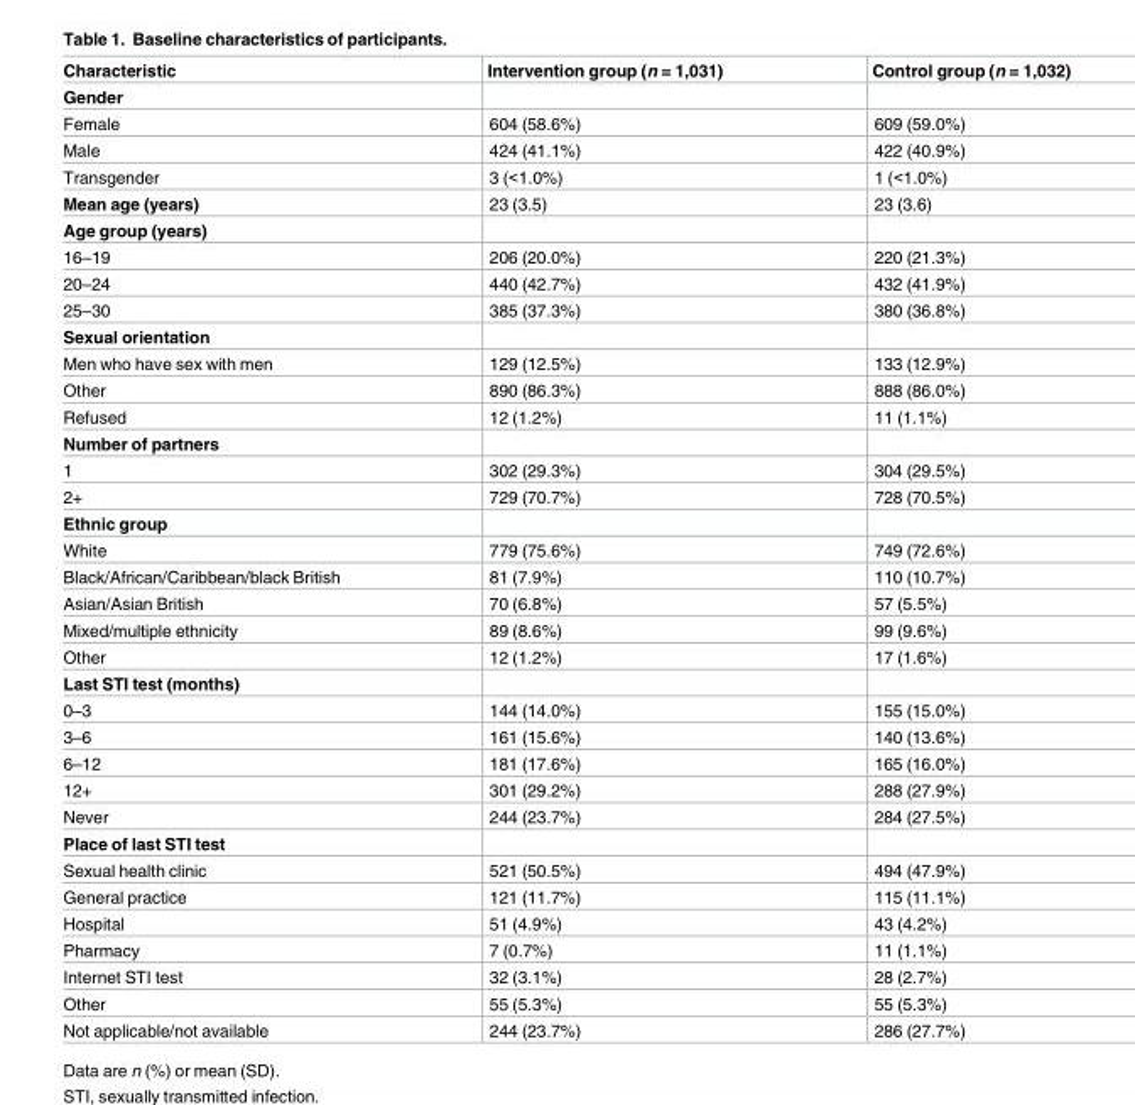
<table><thead><tr><td>Characteristic</td><td>Intervention group (n = 1,031)</td><td>Control group (n = 1,032)</td></tr></thead><tbody><tr><td colspan="3">Gender</td></tr><tr><td>Female</td><td>604 (58.6%)</td><td>609 (59.0%)</td></tr><tr><td>Male</td><td>424 (41.1%)</td><td>422 (40.9%)</td></tr><tr><td>Transgender</td><td>3 (&lt;1.0%)</td><td>1 (&lt;1.0%)</td></tr><tr><td>Mean age (years)</td><td>23 (3.5)</td><td>23 (3.6)</td></tr><tr><td colspan="3">Age group (years)</td></tr><tr><td>16–19</td><td>206 (20.0%)</td><td>220 (21.3%)</td></tr><tr><td>20–24</td><td>440 (42.7%)</td><td>432 (41.9%)</td></tr><tr><td>25–30</td><td>385 (37.3%)</td><td>380 (36.8%)</td></tr><tr><td colspan="3">Sexual orientation</td></tr><tr><td>Men who have sex with men</td><td>129 (12.5%)</td><td>133 (12.9%)</td></tr><tr><td>Other</td><td>890 (86.3%)</td><td>888 (86.0%)</td></tr><tr><td>Refused</td><td>12 (1.2%)</td><td>11 (1.1%)</td></tr><tr><td colspan="3">Number of partners</td></tr><tr><td>1</td><td>302 (29.3%)</td><td>304 (29.5%)</td></tr><tr><td>2+</td><td>729 (70.7%)</td><td>728 (70.5%)</td></tr><tr><td colspan="3">Ethnic group</td></tr><tr><td>White</td><td>779 (75.6%)</td><td>749 (72.6%)</td></tr><tr><td>Black/African/Caribbean/black British</td><td>81 (7.9%)</td><td>110 (10.7%)</td></tr><tr><td>Asian/Asian British</td><td>70 (6.8%)</td><td>57 (5.5%)</td></tr><tr><td>Mixed/multiple ethnicity</td><td>89 (8.6%)</td><td>99 (9.6%)</td></tr><tr><td>Other</td><td>12 (1.2%)</td><td>17 (1.6%)</td></tr><tr><td colspan="3">Last STI test (months)</td></tr><tr><td>0–3</td><td>144 (14.0%)</td><td>155 (15.0%)</td></tr><tr><td>3–6</td><td>161 (15.6%)</td><td>140 (13.6%)</td></tr><tr><td>6–12</td><td>181 (17.6%)</td><td>165 (16.0%)</td></tr><tr><td>12+</td><td>301 (29.2%)</td><td>288 (27.9%)</td></tr><tr><td>Never</td><td>244 (23.7%)</td><td>284 (27.5%)</td></tr><tr><td colspan="3">Place of last STI test</td></tr><tr><td>Sexual health clinic</td><td>521 (50.5%)</td><td>494 (47.9%)</td></tr><tr><td>General practice</td><td>121 (11.7%)</td><td>115 (11.1%)</td></tr><tr><td>Hospital</td><td>51 (4.9%)</td><td>43 (4.2%)</td></tr><tr><td>Pharmacy</td><td>7 (0.7%)</td><td>11 (1.1%)</td></tr><tr><td>Internet STI test</td><td>32 (3.1%)</td><td>28 (2.7%)</td></tr><tr><td>Other</td><td>55 (5.3%)</td><td>55 (5.3%)</td></tr><tr><td>Not applicable/not available</td><td>244 (23.7%)</td><td>286 (27.7%)</td></tr></tbody></table>